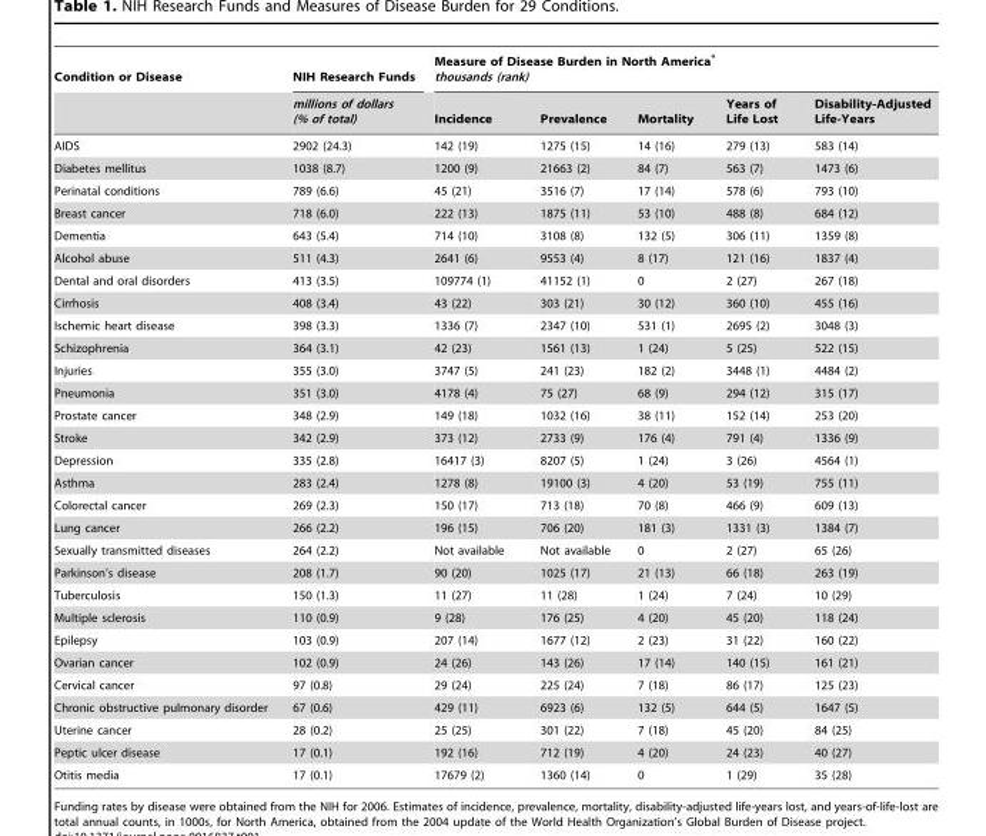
<table><thead><tr><td rowspan="2">Condition or Disease</td><td rowspan="2">NIH Research Funds millions of dollars (% of total)</td><td colspan="5">Measure of Disease Burden in North America* thousands (rank)</td></tr><tr><td>Incidence</td><td>Prevalence</td><td>Mortality</td><td>Years of Life Lost</td><td>Disability-Adjusted Life-Years</td></tr></thead><tbody><tr><td>AIDS</td><td>2902 (24.3)</td><td>142 (19)</td><td>1275 (15)</td><td>14 (16)</td><td>279 (13)</td><td>583 (14)</td></tr><tr><td>Diabetes mellitus</td><td>1038 (8.7)</td><td>1200 (9)</td><td>21663 (2)</td><td>84 (7)</td><td>563 (7)</td><td>1473 (6)</td></tr><tr><td>Perinatal conditions</td><td>789 (6.6)</td><td>45 (21)</td><td>3516 (7)</td><td>17 (14)</td><td>578 (6)</td><td>793 (10)</td></tr><tr><td>Breast cancer</td><td>718 (6.0)</td><td>222 (13)</td><td>1875 (11)</td><td>53 (10)</td><td>488 (8)</td><td>684 (12)</td></tr><tr><td>Dementia</td><td>643 (5.4)</td><td>714 (10)</td><td>3108 (8)</td><td>132 (5)</td><td>306 (11)</td><td>1359 (8)</td></tr><tr><td>Alcohol abuse</td><td>511 (4.3)</td><td>2641 (6)</td><td>9553 (4)</td><td>8 (17)</td><td>121 (16)</td><td>1837 (4)</td></tr><tr><td>Dental and oral disorders</td><td>413 (3.5)</td><td>109774 (1)</td><td>41152 (1)</td><td>0</td><td>2 (27)</td><td>267 (18)</td></tr><tr><td>Cirrhosis</td><td>408 (3.4)</td><td>43 (22)</td><td>303 (21)</td><td>30 (12)</td><td>360 (10)</td><td>455 (16)</td></tr><tr><td>Ischemic heart disease</td><td>398 (3.3)</td><td>1336 (7)</td><td>2347 (10)</td><td>531 (1)</td><td>2695 (2)</td><td>3048 (3)</td></tr><tr><td>Schizophrenia</td><td>364 (3.1)</td><td>42 (23)</td><td>1561 (13)</td><td>1 (24)</td><td>5 (25)</td><td>522 (15)</td></tr><tr><td>Injuries</td><td>355 (3.0)</td><td>3747 (5)</td><td>241 (23)</td><td>182 (2)</td><td>3448 (1)</td><td>4484 (2)</td></tr><tr><td>Pneumonia</td><td>351 (3.0)</td><td>4178 (4)</td><td>75 (27)</td><td>68 (9)</td><td>294 (12)</td><td>315 (17)</td></tr><tr><td>Prostate cancer</td><td>348 (2.9)</td><td>149 (18)</td><td>1032 (16)</td><td>38 (11)</td><td>152 (14)</td><td>253 (20)</td></tr><tr><td>Stroke</td><td>342 (2.9)</td><td>373 (12)</td><td>2733 (9)</td><td>176 (4)</td><td>791 (4)</td><td>1336 (9)</td></tr><tr><td>Depression</td><td>335 (2.8)</td><td>16417 (3)</td><td>8207 (5)</td><td>1 (24)</td><td>3 (26)</td><td>4564 (1)</td></tr><tr><td>Asthma</td><td>283 (2.4)</td><td>1278 (8)</td><td>19100 (3)</td><td>4 (20)</td><td>53 (19)</td><td>755 (11)</td></tr><tr><td>Colorectal cancer</td><td>269 (2.3)</td><td>150 (17)</td><td>713 (18)</td><td>70 (8)</td><td>466 (9)</td><td>609 (13)</td></tr><tr><td>Lung cancer</td><td>266 (2.2)</td><td>196 (15)</td><td>706 (20)</td><td>181 (3)</td><td>1331 (3)</td><td>1384 (7)</td></tr><tr><td>Sexually transmitted diseases</td><td>264 (2.2)</td><td>Not available</td><td>Not available</td><td>0</td><td>2 (27)</td><td>65 (26)</td></tr><tr><td>Parkinson’s disease</td><td>208 (1.7)</td><td>90 (20)</td><td>1025 (17)</td><td>21 (13)</td><td>66 (18)</td><td>263 (19)</td></tr><tr><td>Tuberculosis</td><td>150 (1.3)</td><td>11 (27)</td><td>11 (28)</td><td>1 (24)</td><td>7 (24)</td><td>10 (29)</td></tr><tr><td>Multiple sclerosis</td><td>110 (0.9)</td><td>9 (28)</td><td>176 (25)</td><td>4 (20)</td><td>45 (20)</td><td>118 (24)</td></tr><tr><td>Epilepsy</td><td>103 (0.9)</td><td>207 (14)</td><td>1677 (12)</td><td>2 (23)</td><td>31 (22)</td><td>160 (22)</td></tr><tr><td>Ovarian cancer</td><td>102 (0.9)</td><td>24 (26)</td><td>143 (26)</td><td>17 (14)</td><td>140 (15)</td><td>161 (21)</td></tr><tr><td>Cervical cancer</td><td>97 (0.8)</td><td>29 (24)</td><td>225 (24)</td><td>7 (18)</td><td>86 (17)</td><td>125 (23)</td></tr><tr><td>Chronic obstructive pulmonary disorder</td><td>67 (0.6)</td><td>429 (11)</td><td>6923 (6)</td><td>132 (5)</td><td>644 (5)</td><td>1647 (5)</td></tr><tr><td>Uterine cancer</td><td>28 (0.2)</td><td>25 (25)</td><td>301 (22)</td><td>7 (18)</td><td>45 (20)</td><td>84 (25)</td></tr><tr><td>Peptic ulcer disease</td><td>17 (0.1)</td><td>192 (16)</td><td>712 (19)</td><td>4 (20)</td><td>24 (23)</td><td>40 (27)</td></tr><tr><td>Otitis media</td><td>17 (0.1)</td><td>17679 (2)</td><td>1360 (14)</td><td>0</td><td>1 (29)</td><td>35 (28)</td></tr></tbody></table>